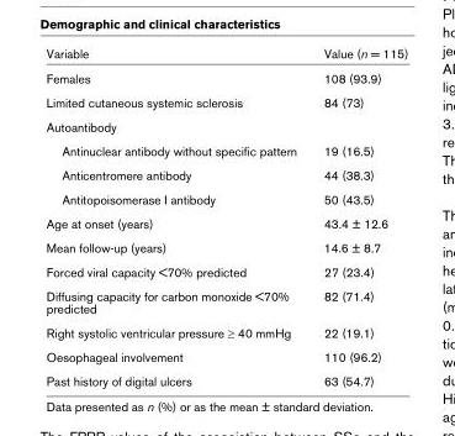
<table><thead><tr><td>Variable</td><td>Value (n = 115)</td></tr></thead><tbody><tr><td>Females</td><td>108 (93.9)</td></tr><tr><td>Limited cutaneous systemic sclerosis</td><td>84 (73)</td></tr><tr><td colspan="2">Autoantibody</td></tr><tr><td>Antinuclear antibody without specific pattern</td><td>19 (16.5)</td></tr><tr><td>Anticentromere antibody</td><td>44 (38.3)</td></tr><tr><td>Antitopoisomerase I antibody</td><td>50 (43.5)</td></tr><tr><td>Age at onset (years)</td><td>43.4 ± 12.6</td></tr><tr><td>Mean follow-up (years)</td><td>14.6 ± 8.7</td></tr><tr><td>Forced viral capacity &lt;70% predicted</td><td>27 (23.4)</td></tr><tr><td>Diffusing capacity for carbon monoxide &lt;70% predicted</td><td>82 (71.4)</td></tr><tr><td>Right systolic ventricular pressure ≥ 40 mmHg</td><td>22 (19.1)</td></tr><tr><td>Oesophageal involvement</td><td>110 (96.2)</td></tr><tr><td>Past history of digital ulcers</td><td>63 (54.7)</td></tr></tbody></table>